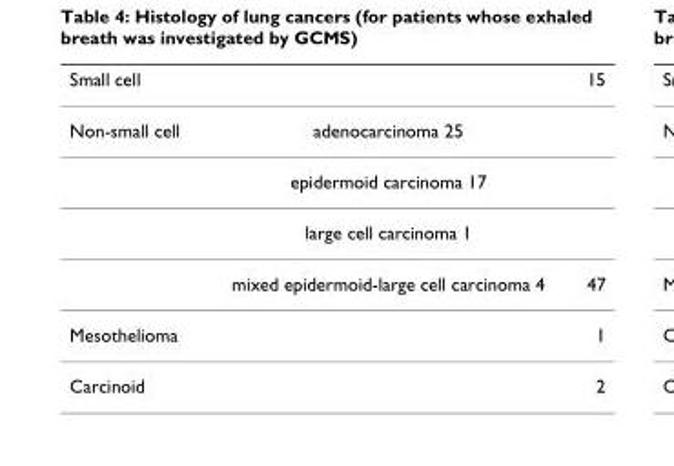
<table><thead><tr><td>Small cell</td><td></td><td>15</td></tr></thead><tbody><tr><td rowspan="4">Non-small cell</td><td>adenocarcinoma 25</td><td></td></tr><tr><td>epidermoid carcinoma 17</td><td></td></tr><tr><td>large cell carcinoma 1</td><td></td></tr><tr><td>mixed epidermoid-large cell carcinoma 4</td><td>47</td></tr><tr><td>Mesothelioma</td><td></td><td>1</td></tr><tr><td>Carcinoid</td><td></td><td>2</td></tr></tbody></table>